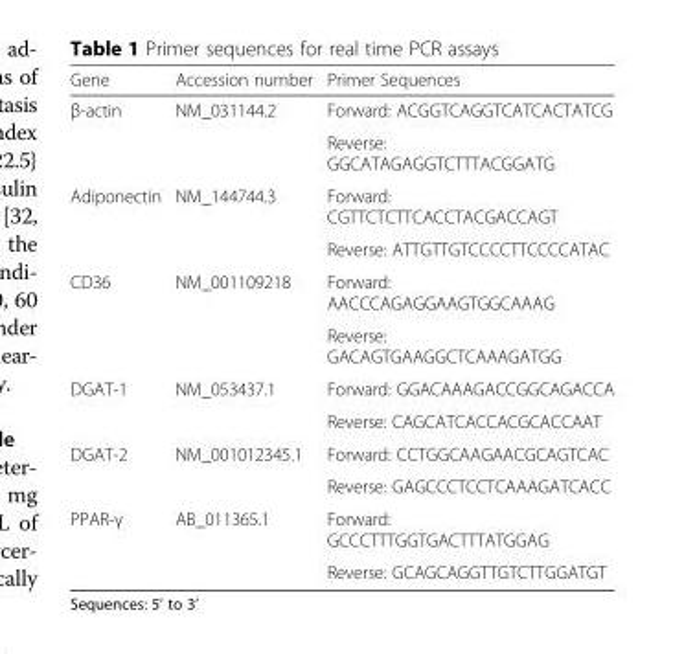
<table><thead><tr><td>Gene</td><td>Accession number</td><td>Primer Sequences</td></tr></thead><tbody><tr><td rowspan="2">β-actin</td><td>NM_031144.2</td><td>Forward: ACGGTCAGGTCATCACTATCG</td></tr><tr><td></td><td>Reverse: GGCATAGAGGTCTTTACGGATG</td></tr><tr><td rowspan="2">Adiponectin</td><td>NM_144744.3</td><td>Forward: CGTTCTCTTCACCTACGACCAGT</td></tr><tr><td></td><td>Reverse: ATTGTTGTCCCCTTCCCCATAC</td></tr><tr><td rowspan="2">CD36</td><td>NM_001109218</td><td>Forward: AACCCAGAGGAAGTGGCAAAG</td></tr><tr><td></td><td>Reverse: GACAGTGAAGGCTCAAAGATGG</td></tr><tr><td rowspan="2">DGAT-1</td><td>NM_053437.1</td><td>Forward: GGACAAAGACCGGCAGACCA</td></tr><tr><td></td><td>Reverse: CAGCATCACCACGCACCAAT</td></tr><tr><td rowspan="2">DGAT-2</td><td>NM_001012345.1</td><td>Forward: CCTGGCAAGAACGCAGTCAC</td></tr><tr><td></td><td>Reverse: GAGCCCTCCTCAAAGATCACC</td></tr><tr><td rowspan="2">PPAR-γ</td><td>AB_011365.1</td><td>Forward: GCCCTTTGGTGACTTTATGGAG</td></tr><tr><td></td><td>Reverse: GCAGCAGGTTGTCTTGGATGT</td></tr></tbody></table>